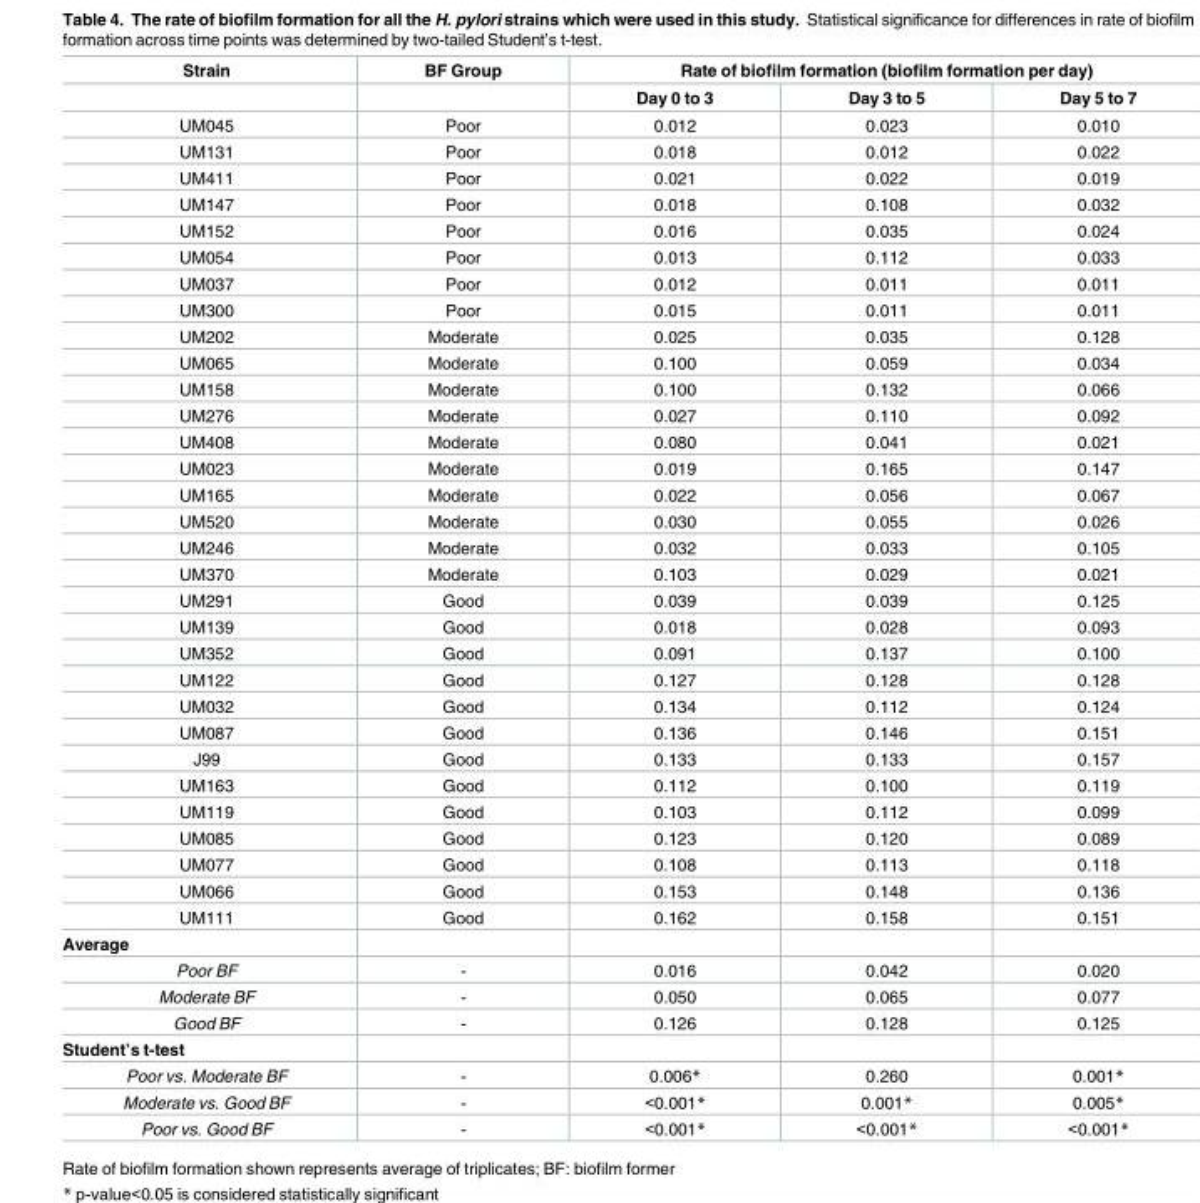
<table><thead><tr><td rowspan="2">Strain</td><td rowspan="2">BF Group</td><td colspan="3">Rate of biofilm formation (biofilm formation per day)</td></tr><tr><td>Day 0 to 3</td><td>Day 3 to 5</td><td>Day 5 to 7</td></tr></thead><tbody><tr><td>UM045</td><td>Poor</td><td>0.012</td><td>0.023</td><td>0.010</td></tr><tr><td>UM131</td><td>Poor</td><td>0.018</td><td>0.012</td><td>0.022</td></tr><tr><td>UM411</td><td>Poor</td><td>0.021</td><td>0.022</td><td>0.019</td></tr><tr><td>UM147</td><td>Poor</td><td>0.018</td><td>0.108</td><td>0.032</td></tr><tr><td>UM152</td><td>Poor</td><td>0.016</td><td>0.035</td><td>0.024</td></tr><tr><td>UM054</td><td>Poor</td><td>0.013</td><td>0.112</td><td>0.033</td></tr><tr><td>UM037</td><td>Poor</td><td>0.012</td><td>0.011</td><td>0.011</td></tr><tr><td>UM300</td><td>Poor</td><td>0.015</td><td>0.011</td><td>0.011</td></tr><tr><td>UM202</td><td>Moderate</td><td>0.025</td><td>0.035</td><td>0.128</td></tr><tr><td>UM065</td><td>Moderate</td><td>0.100</td><td>0.059</td><td>0.034</td></tr><tr><td>UM158</td><td>Moderate</td><td>0.100</td><td>0.132</td><td>0.066</td></tr><tr><td>UM276</td><td>Moderate</td><td>0.027</td><td>0.110</td><td>0.092</td></tr><tr><td>UM408</td><td>Moderate</td><td>0.080</td><td>0.041</td><td>0.021</td></tr><tr><td>UM023</td><td>Moderate</td><td>0.019</td><td>0.165</td><td>0.147</td></tr><tr><td>UM165</td><td>Moderate</td><td>0.022</td><td>0.056</td><td>0.067</td></tr><tr><td>UM520</td><td>Moderate</td><td>0.030</td><td>0.055</td><td>0.026</td></tr><tr><td>UM246</td><td>Moderate</td><td>0.032</td><td>0.033</td><td>0.105</td></tr><tr><td>UM370</td><td>Moderate</td><td>0.103</td><td>0.029</td><td>0.021</td></tr><tr><td>UM291</td><td>Good</td><td>0.039</td><td>0.039</td><td>0.125</td></tr><tr><td>UM139</td><td>Good</td><td>0.018</td><td>0.028</td><td>0.093</td></tr><tr><td>UM352</td><td>Good</td><td>0.091</td><td>0.137</td><td>0.100</td></tr><tr><td>UM122</td><td>Good</td><td>0.127</td><td>0.128</td><td>0.128</td></tr><tr><td>UM032</td><td>Good</td><td>0.134</td><td>0.112</td><td>0.124</td></tr><tr><td>UM087</td><td>Good</td><td>0.136</td><td>0.146</td><td>0.151</td></tr><tr><td>J99</td><td>Good</td><td>0.133</td><td>0.133</td><td>0.157</td></tr><tr><td>UM163</td><td>Good</td><td>0.112</td><td>0.100</td><td>0.119</td></tr><tr><td>UM119</td><td>Good</td><td>0.103</td><td>0.112</td><td>0.099</td></tr><tr><td>UM085</td><td>Good</td><td>0.123</td><td>0.120</td><td>0.089</td></tr><tr><td>UM077</td><td>Good</td><td>0.108</td><td>0.113</td><td>0.118</td></tr><tr><td>UM066</td><td>Good</td><td>0.153</td><td>0.148</td><td>0.136</td></tr><tr><td>UM111</td><td>Good</td><td>0.162</td><td>0.158</td><td>0.151</td></tr><tr><td colspan="5">Average</td></tr><tr><td>Poor BF</td><td>-</td><td>0.016</td><td>0.042</td><td>0.020</td></tr><tr><td>Moderate BF</td><td>-</td><td>0.050</td><td>0.065</td><td>0.077</td></tr><tr><td>Good BF</td><td>-</td><td>0.126</td><td>0.128</td><td>0.125</td></tr><tr><td colspan="5">Student’s t-test</td></tr><tr><td>Poor vs. Moderate BF</td><td>-</td><td>0.006*</td><td>0.260</td><td>0.001*</td></tr><tr><td>Moderate vs. Good BF</td><td>-</td><td>&lt;0.001*</td><td>0.001*</td><td>0.005*</td></tr><tr><td>Poor vs. Good BF</td><td>-</td><td>&lt;0.001*</td><td>&lt;0.001*</td><td>&lt;0.001*</td></tr></tbody></table>